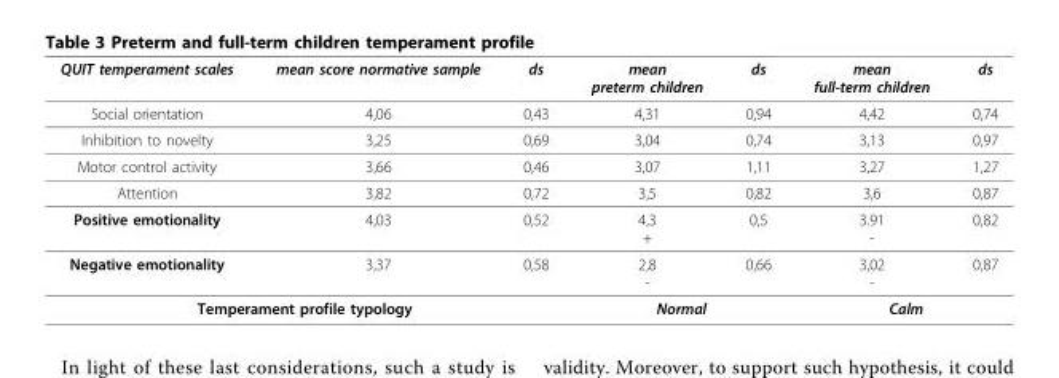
<table><thead><tr><td>QUIT temperament scales</td><td>mean score normative sample</td><td>ds</td><td>mean preterm children</td><td>ds</td><td>mean full-term children</td><td>ds</td></tr></thead><tbody><tr><td>Social orientation</td><td>4,06</td><td>0,43</td><td>4,31</td><td>0,94</td><td>4,42</td><td>0,74</td></tr><tr><td>Inhibition to novelty</td><td>3,25</td><td>0,69</td><td>3,04</td><td>0,74</td><td>3,13</td><td>0,97</td></tr><tr><td>Motor control activity</td><td>3,66</td><td>0,46</td><td>3,07</td><td>1,11</td><td>3,27</td><td>1,27</td></tr><tr><td>Attention</td><td>3,82</td><td>0,72</td><td>3,5</td><td>0,82</td><td>3,6</td><td>0,87</td></tr><tr><td>Positive emotionality</td><td>4,03</td><td>0,52</td><td>4,3 +</td><td>0,5</td><td>3.91 -</td><td>0,82</td></tr><tr><td>Negative emotionality</td><td>3,37</td><td>0,58</td><td>2,8 -</td><td>0,66</td><td>3,02 -</td><td>0,87</td></tr><tr><td colspan="3">Temperament profile typology</td><td colspan="2">Normal</td><td colspan="2">Calm</td></tr></tbody></table>